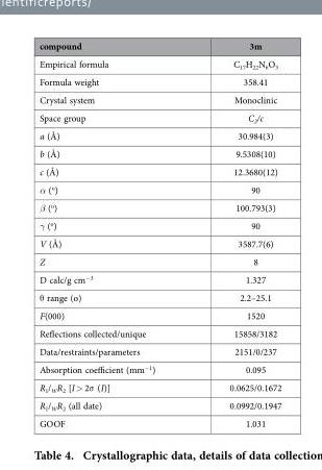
<table><thead><tr><td>compound</td><td>3m</td></tr></thead><tbody><tr><td>Empirical formula</td><td>C<sub>17</sub>H<sub>22</sub>N<sub>6</sub>O<sub>3</sub></td></tr><tr><td>Formula weight</td><td>358.41</td></tr><tr><td>Crystal system</td><td>Monoclinic</td></tr><tr><td>Space group</td><td>C<sub>2</sub>/c</td></tr><tr><td>a (Å)</td><td>30.984(3)</td></tr><tr><td>b (Å)</td><td>9.5308(10)</td></tr><tr><td>c (Å)</td><td>12.3680(12)</td></tr><tr><td>α (<sup>o</sup>)</td><td>90</td></tr><tr><td>β (<sup>o</sup>)</td><td>100.793(3)</td></tr><tr><td>γ (<sup>o</sup>)</td><td>90</td></tr><tr><td>V (Å)</td><td>3587.7(6)</td></tr><tr><td>Z</td><td>8</td></tr><tr><td>D calc/g cm<sup>−3</sup></td><td>1.327</td></tr><tr><td>θ range (o)</td><td>2.2–25.1</td></tr><tr><td>F(000)</td><td>1520</td></tr><tr><td>Reflections collected/unique</td><td>15858/3182</td></tr><tr><td>Data/restraints/parameters</td><td>2151/0/237</td></tr><tr><td>Absorption coefficient (mm<sup>−1</sup>)</td><td>0.095</td></tr><tr><td>R<sub>1</sub>/<sub>W</sub>R<sub>2</sub> [I &gt; 2σ (I)]</td><td>0.0625/0.1672</td></tr><tr><td>R<sub>1</sub>/<sub>W</sub>R<sub>2</sub> (all date)</td><td>0.0992/0.1947</td></tr><tr><td>GOOF</td><td>1.031</td></tr></tbody></table>